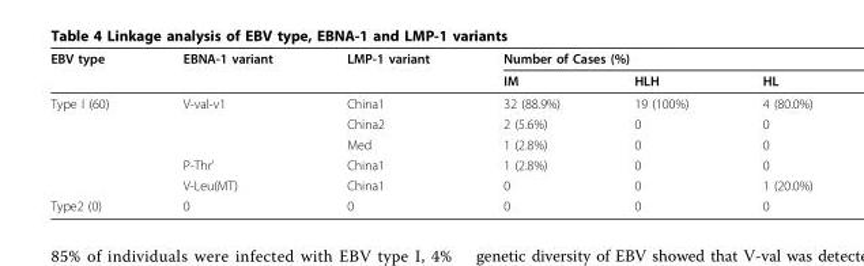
<table><thead><tr><td rowspan="2">EBV type</td><td rowspan="2">EBNA-1 variant</td><td rowspan="2">LMP-1 variant</td><td colspan="3">Number of Cases (%)</td></tr><tr><td>IM</td><td>HLH</td><td>HL</td></tr></thead><tbody><tr><td rowspan="5">Type I (60)</td><td>V-val-v1</td><td>China1</td><td>32 (88.9%)</td><td>19 (100%)</td><td>4 (80.0%)</td></tr><tr><td></td><td>China2</td><td>2 (5.6%)</td><td>0</td><td>0</td></tr><tr><td></td><td>Med</td><td>1 (2.8%)</td><td>0</td><td>0</td></tr><tr><td>P-Thr’</td><td>China1</td><td>1 (2.8%)</td><td>0</td><td>0</td></tr><tr><td>V-Leu(MT)</td><td>China1</td><td>0</td><td>0</td><td>1 (20.0%)</td></tr><tr><td>Type2 (0)</td><td>0</td><td>0</td><td>0</td><td>0</td><td>0</td></tr></tbody></table>